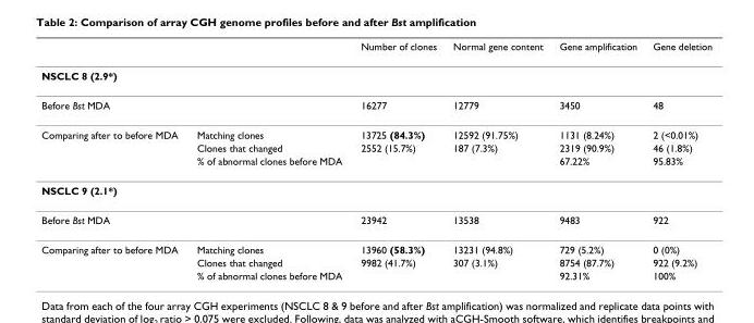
<table><thead><tr><td></td><td></td><td>Number of clones</td><td>Normal gene content</td><td>Gene amplification</td><td>Gene deletion</td></tr></thead><tbody><tr><td colspan="6">NSCLC 8 (2.9*)</td></tr><tr><td>Before Bst MDA</td><td></td><td>16277</td><td>12779</td><td>3450</td><td>48</td></tr><tr><td rowspan="3">Comparing after to before MDA</td><td>Matching clones</td><td>13725 (84.3%)</td><td>12592 (91.75%)</td><td>1131 (8.24%)</td><td>2 (&lt;0.01%)</td></tr><tr><td>Clones that changed</td><td>2552 (15.7%)</td><td>187 (7.3%)</td><td>2319 (90.9%)</td><td>46 (1.8%)</td></tr><tr><td>% of abnormal clones before MDA</td><td></td><td></td><td>67.22%</td><td>95.83%</td></tr><tr><td colspan="6">NSCLC 9 (2.1*)</td></tr><tr><td>Before Bst MDA</td><td></td><td>23942</td><td>13538</td><td>9483</td><td>922</td></tr><tr><td rowspan="3">Comparing after to before MDA</td><td>Matching clones</td><td>13960 (58.3%)</td><td>13231 (94.8%)</td><td>729 (5.2%)</td><td>0 (0%)</td></tr><tr><td>Clones that changed</td><td>9982 (41.7%)</td><td>307 (3.1%)</td><td>8754 (87.7%)</td><td>922 (9.2%)</td></tr><tr><td>% of abnormal clones before MDA</td><td></td><td></td><td>92.31%</td><td>100%</td></tr></tbody></table>